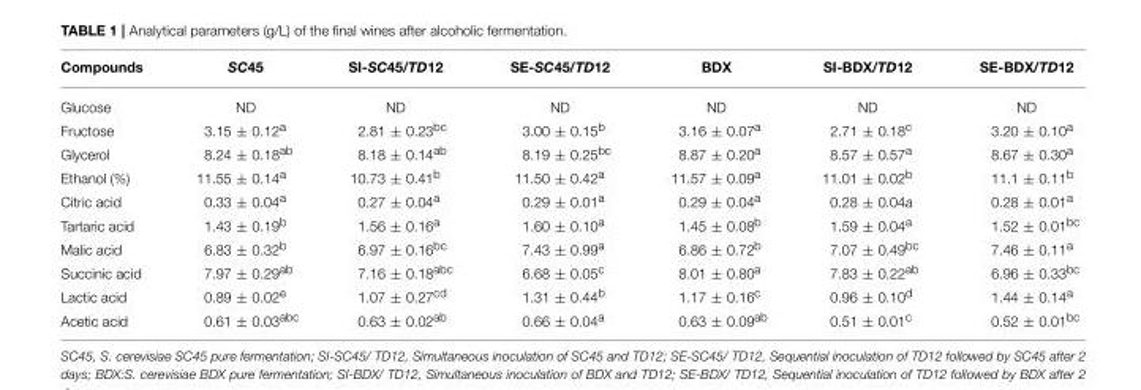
<table><thead><tr><td>Compounds</td><td>SC45</td><td>SI-SC45/TD12</td><td>SE-SC45/TD12</td><td>BDX</td><td>SI-BDX/TD12</td><td>SE-BDX/TD12</td></tr></thead><tbody><tr><td>Glucose</td><td>ND</td><td>ND</td><td>ND</td><td>ND</td><td>ND</td><td>ND</td></tr><tr><td>Fructose</td><td>3.15 ± 0.12<sup>a</sup></td><td>2.81 ± 0.23<sup>bc</sup></td><td>3.00 ± 0.15<sup>b</sup></td><td>3.16 ± 0.07<sup>a</sup></td><td>2.71 ± 0.18<sup>c</sup></td><td>3.20 ± 0.10<sup>a</sup></td></tr><tr><td>Glycerol</td><td>8.24 ± 0.18<sup>ab</sup></td><td>8.18 ± 0.14<sup>ab</sup></td><td>8.19 ± 0.25<sup>bc</sup></td><td>8.87 ± 0.20<sup>a</sup></td><td>8.57 ± 0.57<sup>a</sup></td><td>8.67 ± 0.30<sup>a</sup></td></tr><tr><td>Ethanol (%)</td><td>11.55 ± 0.14<sup>a</sup></td><td>10.73 ± 0.41<sup>b</sup></td><td>11.50 ± 0.42<sup>a</sup></td><td>11.57 ± 0.09<sup>a</sup></td><td>11.01 ± 0.02<sup>b</sup></td><td>11.1 ± 0.11<sup>b</sup></td></tr><tr><td>Citric acid</td><td>0.33 ± 0.04<sup>a</sup></td><td>0.27 ± 0.04<sup>a</sup></td><td>0.29 ± 0.01<sup>a</sup></td><td>0.29 ± 0.04<sup>a</sup></td><td>0.28 ± 0.04a</td><td>0.28 ± 0.01<sup>a</sup></td></tr><tr><td>Tartaric acid</td><td>1.43 ± 0.19<sup>b</sup></td><td>1.56 ± 0.16<sup>a</sup></td><td>1.60 ± 0.10<sup>a</sup></td><td>1.45 ± 0.08<sup>b</sup></td><td>1.59 ± 0.04<sup>a</sup></td><td>1.52 ± 0.01<sup>bc</sup></td></tr><tr><td>Malic acid</td><td>6.83 ± 0.32<sup>b</sup></td><td>6.97 ± 0.16<sup>bc</sup></td><td>7.43 ± 0.99<sup>a</sup></td><td>6.86 ± 0.72<sup>b</sup></td><td>7.07 ± 0.49<sup>bc</sup></td><td>7.46 ± 0.11<sup>a</sup></td></tr><tr><td>Succinic acid</td><td>7.97 ± 0.29<sup>ab</sup></td><td>7.16 ± 0.18<sup>abc</sup></td><td>6.68 ± 0.05<sup>c</sup></td><td>8.01 ± 0.80<sup>a</sup></td><td>7.83 ± 0.22<sup>ab</sup></td><td>6.96 ± 0.33<sup>bc</sup></td></tr><tr><td>Lactic acid</td><td>0.89 ± 0.02<sup>e</sup></td><td>1.07 ± 0.27<sup>cd</sup></td><td>1.31 ± 0.44<sup>b</sup></td><td>1.17 ± 0.16<sup>c</sup></td><td>0.96 ± 0.10<sup>d</sup></td><td>1.44 ± 0.14<sup>a</sup></td></tr><tr><td>Acetic acid</td><td>0.61 ± 0.03<sup>abc</sup></td><td>0.63 ± 0.02<sup>ab</sup></td><td>0.66 ± 0.04<sup>a</sup></td><td>0.63 ± 0.09<sup>ab</sup></td><td>0.51 ± 0.01<sup>c</sup></td><td>0.52 ± 0.01<sup>bc</sup></td></tr></tbody></table>